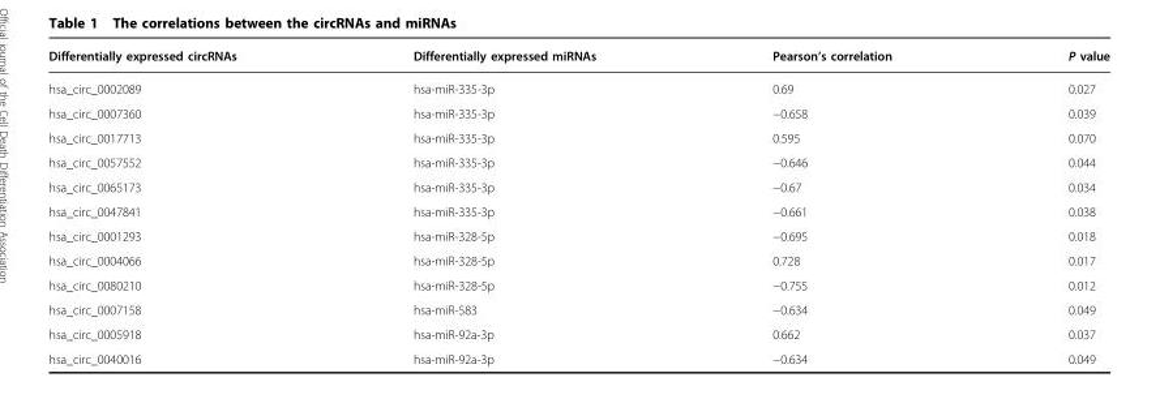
<table><thead><tr><td>Differentially expressed circRNAs</td><td>Differentially expressed miRNAs</td><td>Pearson’s correlation</td><td>P value</td></tr></thead><tbody><tr><td>hsa_circ_0002089</td><td>hsa-miR-335-3p</td><td>0.69</td><td>0.027</td></tr><tr><td>hsa_circ_0007360</td><td>hsa-miR-335-3p</td><td>−0.658</td><td>0.039</td></tr><tr><td>hsa_circ_0017713</td><td>hsa-miR-335-3p</td><td>0.595</td><td>0.070</td></tr><tr><td>hsa_circ_0057552</td><td>hsa-miR-335-3p</td><td>−0.646</td><td>0.044</td></tr><tr><td>hsa_circ_0065173</td><td>hsa-miR-335-3p</td><td>−0.67</td><td>0.034</td></tr><tr><td>hsa_circ_0047841</td><td>hsa-miR-335-3p</td><td>−0.661</td><td>0.038</td></tr><tr><td>hsa_circ_0001293</td><td>hsa-miR-328-5p</td><td>−0.695</td><td>0.018</td></tr><tr><td>hsa_circ_0004066</td><td>hsa-miR-328-5p</td><td>0.728</td><td>0.017</td></tr><tr><td>hsa_circ_0080210</td><td>hsa-miR-328-5p</td><td>−0.755</td><td>0.012</td></tr><tr><td>hsa_circ_0007158</td><td>hsa-miR-583</td><td>−0.634</td><td>0.049</td></tr><tr><td>hsa_circ_0005918</td><td>hsa-miR-92a-3p</td><td>0.662</td><td>0.037</td></tr><tr><td>hsa_circ_0040016</td><td>hsa-miR-92a-3p</td><td>−0.634</td><td>0.049</td></tr></tbody></table>